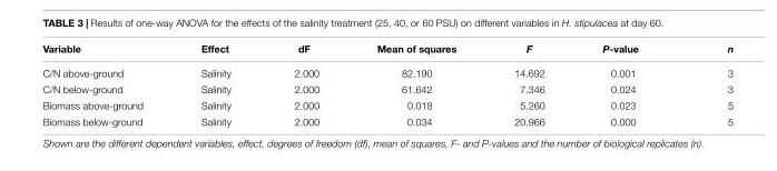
<table><thead><tr><td>Variable</td><td>Effect</td><td>dF</td><td>Mean of squares</td><td>F</td><td>P-value</td><td>n</td></tr></thead><tbody><tr><td>C/N above-ground</td><td>Salinity</td><td>2.000</td><td>82.190</td><td>14.692</td><td>0.001</td><td>3</td></tr><tr><td>C/N below-ground</td><td>Salinity</td><td>2.000</td><td>61.642</td><td>7.346</td><td>0.024</td><td>3</td></tr><tr><td>Biomass above-ground</td><td>Salinity</td><td>2.000</td><td>0.018</td><td>5.260</td><td>0.023</td><td>5</td></tr><tr><td>Biomass below-ground</td><td>Salinity</td><td>2.000</td><td>0.034</td><td>20.966</td><td>0.000</td><td>5</td></tr></tbody></table>